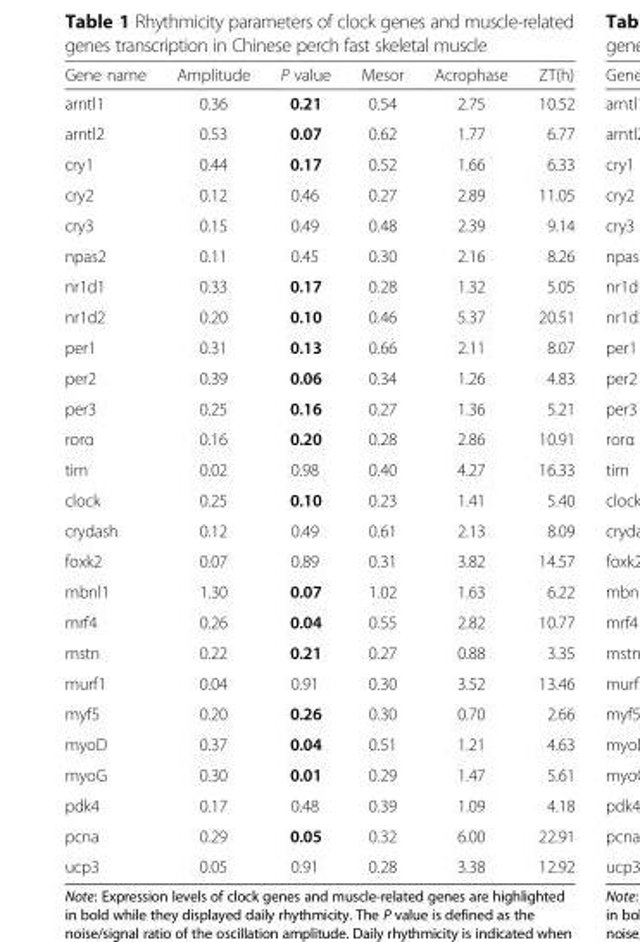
<table><thead><tr><td>Gene name</td><td>Amplitude</td><td>P value</td><td>Mesor</td><td>Acrophase</td><td>ZT(h)</td></tr></thead><tbody><tr><td>arntl1</td><td>0.36</td><td>0.21</td><td>0.54</td><td>2.75</td><td>10.52</td></tr><tr><td>arntl2</td><td>0.53</td><td>0.07</td><td>0.62</td><td>1.77</td><td>6.77</td></tr><tr><td>cry1</td><td>0.44</td><td>0.17</td><td>0.52</td><td>1.66</td><td>6.33</td></tr><tr><td>cry2</td><td>0.12</td><td>0.46</td><td>0.27</td><td>2.89</td><td>11.05</td></tr><tr><td>cry3</td><td>0.15</td><td>0.49</td><td>0.48</td><td>2.39</td><td>9.14</td></tr><tr><td>npas2</td><td>0.11</td><td>0.45</td><td>0.30</td><td>2.16</td><td>8.26</td></tr><tr><td>nr1d1</td><td>0.33</td><td>0.17</td><td>0.28</td><td>1.32</td><td>5.05</td></tr><tr><td>nr1d2</td><td>0.20</td><td>0.10</td><td>0.46</td><td>5.37</td><td>20.51</td></tr><tr><td>per1</td><td>0.31</td><td>0.13</td><td>0.66</td><td>2.11</td><td>8.07</td></tr><tr><td>per2</td><td>0.39</td><td>0.06</td><td>0.34</td><td>1.26</td><td>4.83</td></tr><tr><td>per3</td><td>0.25</td><td>0.16</td><td>0.27</td><td>1.36</td><td>5.21</td></tr><tr><td>rorα</td><td>0.16</td><td>0.20</td><td>0.28</td><td>2.86</td><td>10.91</td></tr><tr><td>tim</td><td>0.02</td><td>0.98</td><td>0.40</td><td>4.27</td><td>16.33</td></tr><tr><td>clock</td><td>0.25</td><td>0.10</td><td>0.23</td><td>1.41</td><td>5.40</td></tr><tr><td>crydash</td><td>0.12</td><td>0.49</td><td>0.61</td><td>2.13</td><td>8.09</td></tr><tr><td>foxk2</td><td>0.07</td><td>0.89</td><td>0.31</td><td>3.82</td><td>14.57</td></tr><tr><td>mbnl1</td><td>1.30</td><td>0.07</td><td>1.02</td><td>1.63</td><td>6.22</td></tr><tr><td>mrf4</td><td>0.26</td><td>0.04</td><td>0.55</td><td>2.82</td><td>10.77</td></tr><tr><td>mstn</td><td>0.22</td><td>0.21</td><td>0.27</td><td>0.88</td><td>3.35</td></tr><tr><td>murf1</td><td>0.04</td><td>0.91</td><td>0.30</td><td>3.52</td><td>13.46</td></tr><tr><td>myf5</td><td>0.20</td><td>0.26</td><td>0.30</td><td>0.70</td><td>2.66</td></tr><tr><td>myoD</td><td>0.37</td><td>0.04</td><td>0.51</td><td>1.21</td><td>4.63</td></tr><tr><td>myoG</td><td>0.30</td><td>0.01</td><td>0.29</td><td>1.47</td><td>5.61</td></tr><tr><td>pdk4</td><td>0.17</td><td>0.48</td><td>0.39</td><td>1.09</td><td>4.18</td></tr><tr><td>pcna</td><td>0.29</td><td>0.05</td><td>0.32</td><td>6.00</td><td>22.91</td></tr><tr><td>ucp3</td><td>0.05</td><td>0.91</td><td>0.28</td><td>3.38</td><td>12.92</td></tr></tbody></table>